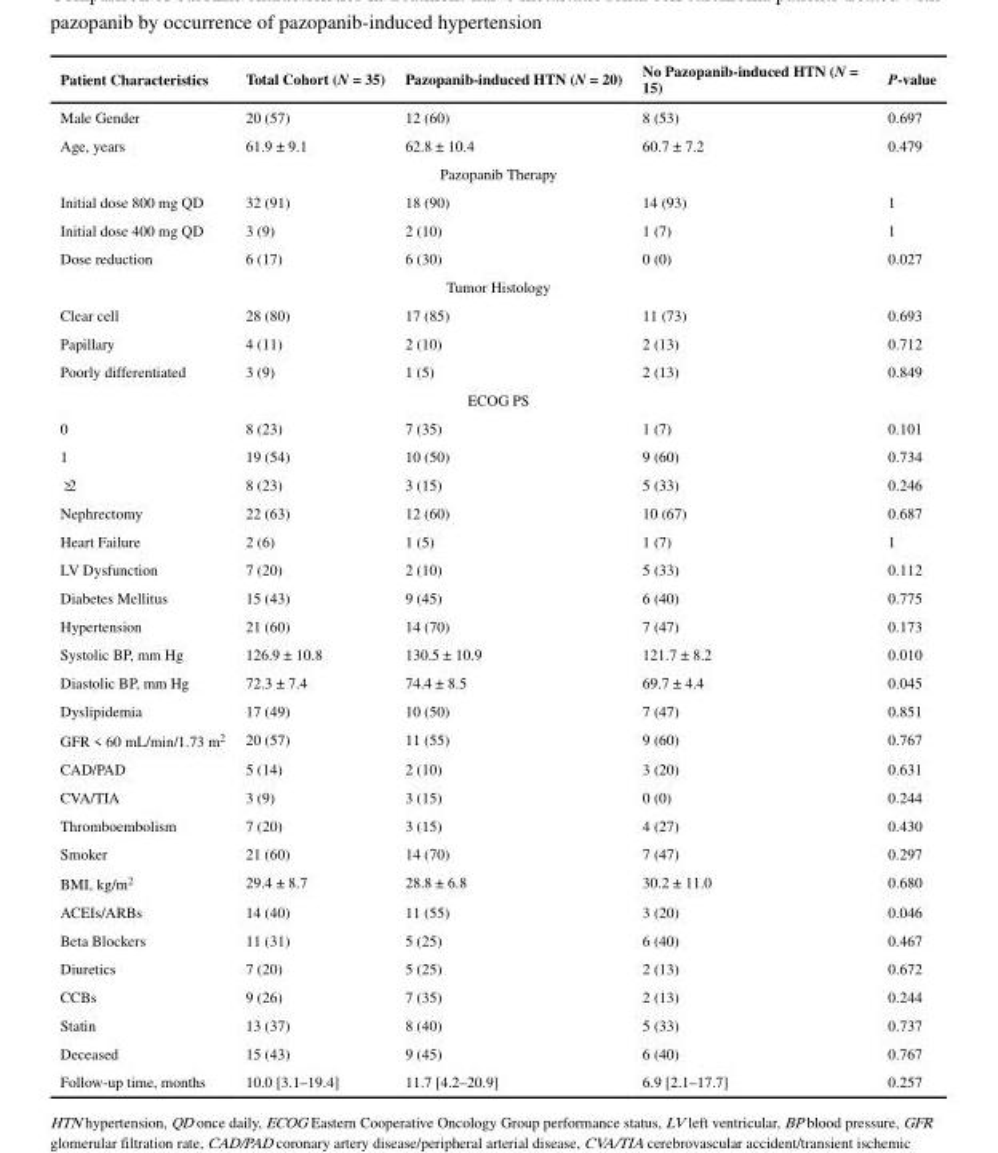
<table><thead><tr><td>Patient Characteristics</td><td>Total Cohort (N = 35)</td><td>Pazopanib-induced HTN (N = 20)</td><td>No Pazopanib-induced HTN (N = 15)</td><td>P-value</td></tr></thead><tbody><tr><td>Male Gender</td><td>20 (57)</td><td>12 (60)</td><td>8 (53)</td><td>0.697</td></tr><tr><td>Age, years</td><td>61.9 ± 9.1</td><td>62.8 ± 10.4</td><td>60.7 ± 7.2</td><td>0.479</td></tr><tr><td colspan="5">Pazopanib Therapy</td></tr><tr><td>Initial dose 800 mg QD</td><td>32 (91)</td><td>18 (90)</td><td>14 (93)</td><td>1</td></tr><tr><td>Initial dose 400 mg QD</td><td>3 (9)</td><td>2 (10)</td><td>1 (7)</td><td>1</td></tr><tr><td>Dose reduction</td><td>6 (17)</td><td>6 (30)</td><td>0 (0)</td><td>0.027</td></tr><tr><td colspan="5">Tumor Histology</td></tr><tr><td>Clear cell</td><td>28 (80)</td><td>17 (85)</td><td>11 (73)</td><td>0.693</td></tr><tr><td>Papillary</td><td>4 (11)</td><td>2 (10)</td><td>2 (13)</td><td>0.712</td></tr><tr><td>Poorly differentiated</td><td>3 (9)</td><td>1 (5)</td><td>2 (13)</td><td>0.849</td></tr><tr><td colspan="5">ECOG PS</td></tr><tr><td>0</td><td>8 (23)</td><td>7 (35)</td><td>1 (7)</td><td>0.101</td></tr><tr><td>1</td><td>19 (54)</td><td>10 (50)</td><td>9 (60)</td><td>0.734</td></tr><tr><td>≥2</td><td>8 (23)</td><td>3 (15)</td><td>5 (33)</td><td>0.246</td></tr><tr><td>Nephrectomy</td><td>22 (63)</td><td>12 (60)</td><td>10 (67)</td><td>0.687</td></tr><tr><td>Heart Failure</td><td>2 (6)</td><td>1 (5)</td><td>1 (7)</td><td>1</td></tr><tr><td>LV Dysfunction</td><td>7 (20)</td><td>2 (10)</td><td>5 (33)</td><td>0.112</td></tr><tr><td>Diabetes Mellitus</td><td>15 (43)</td><td>9 (45)</td><td>6 (40)</td><td>0.775</td></tr><tr><td>Hypertension</td><td>21 (60)</td><td>14 (70)</td><td>7 (47)</td><td>0.173</td></tr><tr><td>Systolic BP, mm Hg</td><td>126.9 ± 10.8</td><td>130.5 ± 10.9</td><td>121.7 ± 8.2</td><td>0.010</td></tr><tr><td>Diastolic BP, mm Hg</td><td>72.3 ± 7.4</td><td>74.4 ± 8.5</td><td>69.7 ± 4.4</td><td>0.045</td></tr><tr><td>Dyslipidemia</td><td>17 (49)</td><td>10 (50)</td><td>7 (47)</td><td>0.851</td></tr><tr><td>GFR &lt; 60 mL/min/1.73 m<sup>2</sup></td><td>20 (57)</td><td>11 (55)</td><td>9 (60)</td><td>0.767</td></tr><tr><td>CAD/PAD</td><td>5 (14)</td><td>2 (10)</td><td>3 (20)</td><td>0.631</td></tr><tr><td>CVA/TIA</td><td>3 (9)</td><td>3 (15)</td><td>0 (0)</td><td>0.244</td></tr><tr><td>Thromboembolism</td><td>7 (20)</td><td>3 (15)</td><td>4 (27)</td><td>0.430</td></tr><tr><td>Smoker</td><td>21 (60)</td><td>14 (70)</td><td>7 (47)</td><td>0.297</td></tr><tr><td>BMI, kg/m<sup>2</sup></td><td>29.4 ± 8.7</td><td>28.8 ± 6.8</td><td>30.2 ± 11.0</td><td>0.680</td></tr><tr><td>ACEIs/ARBs</td><td>14 (40)</td><td>11 (55)</td><td>3 (20)</td><td>0.046</td></tr><tr><td>Beta Blockers</td><td>11 (31)</td><td>5 (25)</td><td>6 (40)</td><td>0.467</td></tr><tr><td>Diuretics</td><td>7 (20)</td><td>5 (25)</td><td>2 (13)</td><td>0.672</td></tr><tr><td>CCBs</td><td>9 (26)</td><td>7 (35)</td><td>2 (13)</td><td>0.244</td></tr><tr><td>Statin</td><td>13 (37)</td><td>8 (40)</td><td>5 (33)</td><td>0.737</td></tr><tr><td>Deceased</td><td>15 (43)</td><td>9 (45)</td><td>6 (40)</td><td>0.767</td></tr><tr><td>Follow-up time, months</td><td>10.0 [3.1–19.4]</td><td>11.7 [4.2–20.9]</td><td>6.9 [2.1–17.7]</td><td>0.257</td></tr></tbody></table>